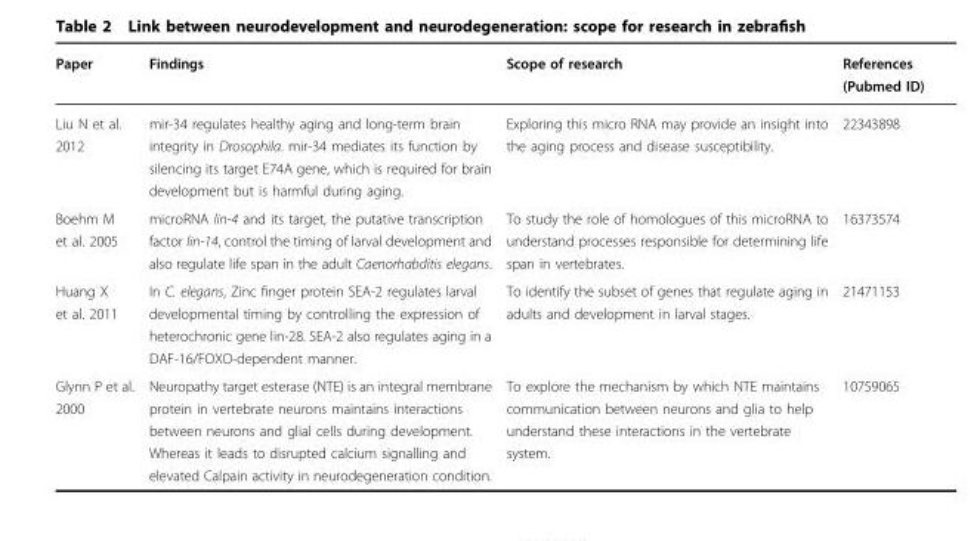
<table><thead><tr><td>Paper</td><td>Findings</td><td>Scope of research</td><td>References (Pubmed ID)</td></tr></thead><tbody><tr><td>Liu N et al. 2012</td><td>mir-34 regulates healthy aging and long-term brain integrity in Drosophila. mir-34 mediates its function by silencing its target E74A gene, which is required for brain development but is harmful during aging.</td><td>Exploring this micro RNA may provide an insight into the aging process and disease susceptibility.</td><td>22343898</td></tr><tr><td>Boehm M et al. 2005</td><td>microRNA lin-4 and its target, the putative transcription factor lin-14, control the timing of larval development and also regulate life span in the adult Caenorhabditis elegans.</td><td>To study the role of homologues of this microRNA to understand processes responsible for determining life span in vertebrates.</td><td>16373574</td></tr><tr><td>Huang X et al. 2011</td><td>In C. elegans, Zinc finger protein SEA-2 regulates larval developmental timing by controlling the expression of heterochronic gene lin-28. SEA-2 also regulates aging in a DAF-16/FOXO-dependent manner.</td><td>To identify the subset of genes that regulate aging in adults and development in larval stages.</td><td>21471153</td></tr><tr><td>Glynn P et al. 2000</td><td>Neuropathy target esterase (NTE) is an integral membrane protein in vertebrate neurons maintains interactions between neurons and glial cells during development. Whereas it leads to disrupted calcium signalling and elevated Calpain activity in neurodegeneration condition.</td><td>To explore the mechanism by which NTE maintains communication between neurons and glia to help understand these interactions in the vertebrate system.</td><td>10759065</td></tr></tbody></table>